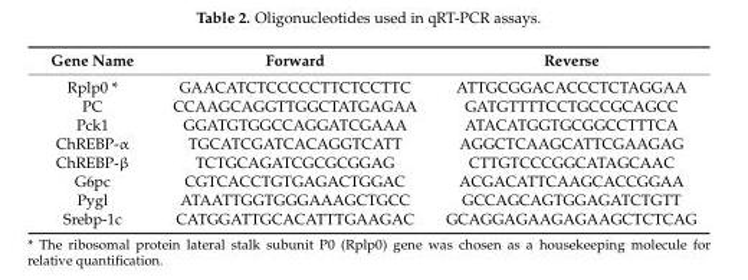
<table><thead><tr><td>Gene Name</td><td>Forward</td><td>Reverse</td></tr></thead><tbody><tr><td>Rplp0 *</td><td>GAACATCTCCCCCTTCTCCTTC</td><td>ATTGCGGACACCCTCTAGGAA</td></tr><tr><td>PC</td><td>CCAAGCAGGTTGGCTATGAGAA</td><td>GATGTTTTCCTGCCGCAGCC</td></tr><tr><td>Pck1</td><td>GGATGTGGCCAGGATCGAAA</td><td>ATACATGGTGCGGCCTTTCA</td></tr><tr><td>ChREBP-α</td><td>TGCATCGATCACAGGTCATT</td><td>AGGCTCAAGCATTCGAAGAG</td></tr><tr><td>ChREBP-β</td><td>TCTGCAGATCGCGCGGAG</td><td>CTTGTCCCGGCATAGCAAC</td></tr><tr><td>G6pc</td><td>CGTCACCTGTGAGACTGGAC</td><td>ACGACATTCAAGCACCGGAA</td></tr><tr><td>Pygl</td><td>ATAATTGGTGGGAAAGCTGCC</td><td>GCCAGCAGTGGAGATCTGTT</td></tr><tr><td>Srebp-1c</td><td>CATGGATTGCACATTTGAAGAC</td><td>GCAGGAGAAGAGAAGCTCTCAG</td></tr></tbody></table>